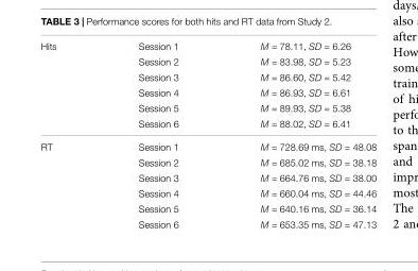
<table><tbody><tr><td rowspan="6">Hits</td><td>Session 1</td><td>M = 78.11, SD = 6.26</td></tr><tr><td>Session 2</td><td>M = 83.98, SD = 5.23</td></tr><tr><td>Session 3</td><td>M = 86.60, SD = 5.42</td></tr><tr><td>Session 4</td><td>M = 86.93, SD = 6.61</td></tr><tr><td>Session 5</td><td>M = 89.93, SD = 5.38</td></tr><tr><td>Session 6</td><td>M = 88.02, SD = 6.41</td></tr><tr><td rowspan="6">RT</td><td>Session 1</td><td>M = 728.69 ms, SD = 48.08</td></tr><tr><td>Session 2</td><td>M = 685.02 ms, SD = 38.18</td></tr><tr><td>Session 3</td><td>M = 664.76 ms, SD = 38.00</td></tr><tr><td>Session 4</td><td>M = 660.04 ms, SD = 44.46</td></tr><tr><td>Session 5</td><td>M = 640.16 ms, SD = 36.14</td></tr><tr><td>Session 6</td><td>M = 653.35 ms, SD = 47.13</td></tr></tbody></table>